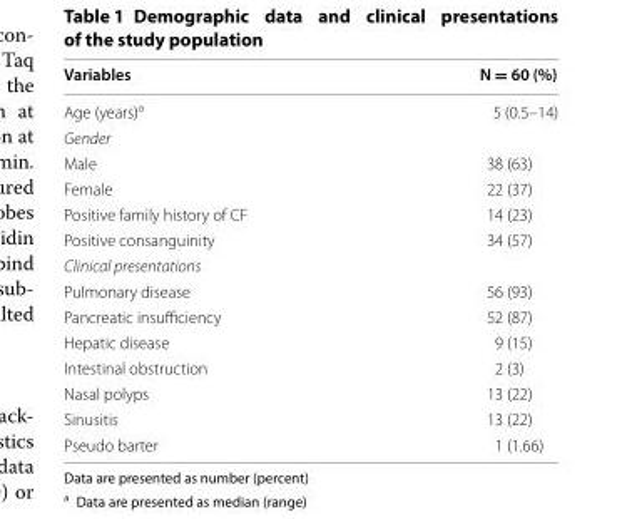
<table><thead><tr><td>Variables</td><td>N = 60 (%)</td></tr></thead><tbody><tr><td>Age (years)<sup>a</sup></td><td>5 (0.5–14)</td></tr><tr><td colspan="2">Gender</td></tr><tr><td>Male</td><td>38 (63)</td></tr><tr><td>Female</td><td>22 (37)</td></tr><tr><td>Positive family history of CF</td><td>14 (23)</td></tr><tr><td>Positive consanguinity</td><td>34 (57)</td></tr><tr><td colspan="2">Clinical presentations</td></tr><tr><td>Pulmonary disease</td><td>56 (93)</td></tr><tr><td>Pancreatic insufficiency</td><td>52 (87)</td></tr><tr><td>Hepatic disease</td><td>9 (15)</td></tr><tr><td>Intestinal obstruction</td><td>2 (3)</td></tr><tr><td>Nasal polyps</td><td>13 (22)</td></tr><tr><td>Sinusitis</td><td>13 (22)</td></tr><tr><td>Pseudo barter</td><td>1 (1.66)</td></tr></tbody></table>